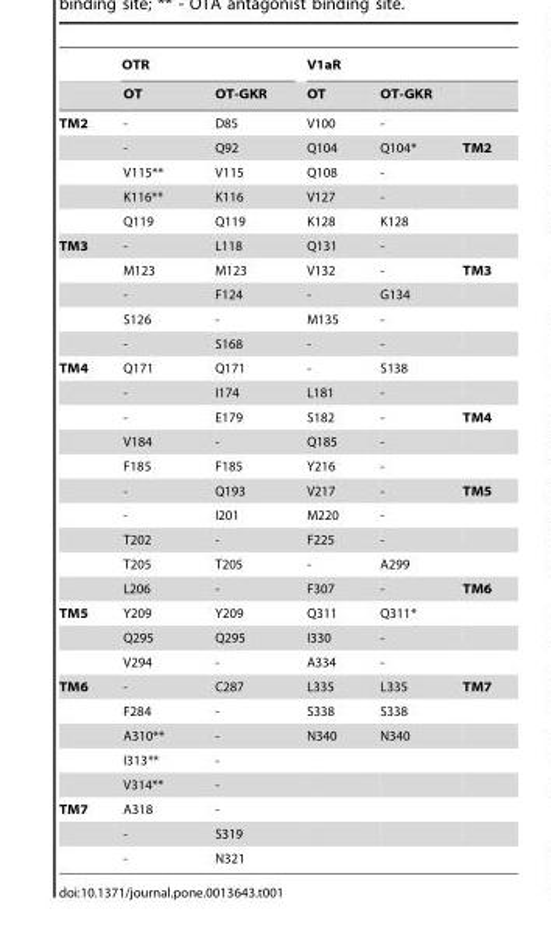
<table><thead><tr><td colspan="3">OTR</td><td colspan="3">V1aR</td></tr><tr><td></td><td>OT</td><td>OT-GKR</td><td>OT</td><td>OT-GKR</td><td></td></tr></thead><tbody><tr><td rowspan="5">TM2</td><td>-</td><td>D85</td><td>V100</td><td>-</td><td></td></tr><tr><td>-</td><td>Q92</td><td>Q104</td><td>Q104*</td><td>TM2</td></tr><tr><td>V115**</td><td>V115</td><td>Q108</td><td>-</td><td></td></tr><tr><td>K116**</td><td>K116</td><td>V127</td><td>-</td><td></td></tr><tr><td>Q119</td><td>Q119</td><td>K128</td><td>K128</td><td></td></tr><tr><td rowspan="5">TM3</td><td>-</td><td>L118</td><td>Q131</td><td>-</td><td></td></tr><tr><td>M123</td><td>M123</td><td>V132</td><td>-</td><td>TM3</td></tr><tr><td>-</td><td>F124</td><td>-</td><td>G134</td><td></td></tr><tr><td>S126</td><td>-</td><td>M135</td><td>-</td><td></td></tr><tr><td>-</td><td>S168</td><td>-</td><td>-</td><td></td></tr><tr><td rowspan="10">TM4</td><td>Q171</td><td>Q171</td><td>-</td><td>S138</td><td></td></tr><tr><td>-</td><td>I174</td><td>L181</td><td>-</td><td></td></tr><tr><td>-</td><td>E179</td><td>S182</td><td>-</td><td>TM4</td></tr><tr><td>V184</td><td>-</td><td>Q185</td><td>-</td><td></td></tr><tr><td>F185</td><td>F185</td><td>Y216</td><td>-</td><td></td></tr><tr><td>-</td><td>Q193</td><td>V217</td><td>-</td><td>TM5</td></tr><tr><td>-</td><td>I201</td><td>M220</td><td>-</td><td></td></tr><tr><td>T202</td><td>-</td><td>F225</td><td>-</td><td></td></tr><tr><td>T205</td><td>T205</td><td>-</td><td>A299</td><td></td></tr><tr><td>L206</td><td>-</td><td>F307</td><td>-</td><td>TM6</td></tr><tr><td rowspan="3">TM5</td><td>Y209</td><td>Y209</td><td>Q311</td><td>Q311*</td><td></td></tr><tr><td>Q295</td><td>Q295</td><td>I330</td><td>-</td><td></td></tr><tr><td>V294</td><td>-</td><td>A334</td><td>-</td><td></td></tr><tr><td rowspan="5">TM6</td><td>-</td><td>C287</td><td>L335</td><td>L335</td><td>TM7</td></tr><tr><td>F284</td><td>-</td><td>S338</td><td>S338</td><td></td></tr><tr><td>A310**</td><td>-</td><td>N340</td><td>N340</td><td></td></tr><tr><td>I313**</td><td>-</td><td></td><td></td><td></td></tr><tr><td>V314**</td><td>-</td><td></td><td></td><td></td></tr><tr><td rowspan="3">TM7</td><td>A318</td><td>-</td><td></td><td></td><td></td></tr><tr><td>-</td><td>S319</td><td></td><td></td><td></td></tr><tr><td>-</td><td>N321</td><td></td><td></td><td></td></tr></tbody></table>